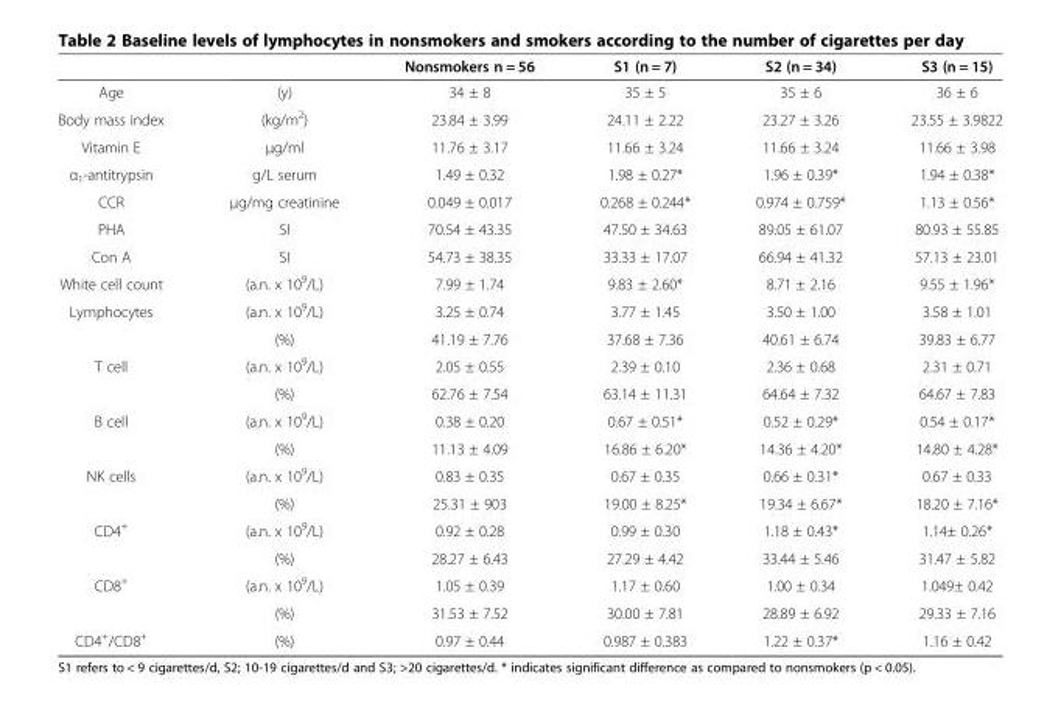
<table><thead><tr><td></td><td></td><td>Nonsmokers n = 56</td><td>S1 (n = 7)</td><td>S2 (n = 34)</td><td>S3 (n = 15)</td></tr></thead><tbody><tr><td>Age</td><td>(y)</td><td>34 ± 8</td><td>35 ± 5</td><td>35 ± 6</td><td>36 ± 6</td></tr><tr><td>Body mass index</td><td>(kg/m<sup>2</sup>)</td><td>23.84 ± 3.99</td><td>24.11 ± 2.22</td><td>23.27 ± 3.26</td><td>23.55 ± 3.9822</td></tr><tr><td>Vitamin E</td><td>μg/ml</td><td>11.76 ± 3.17</td><td>11.66 ± 3.24</td><td>11.66 ± 3.24</td><td>11.66 ± 3.98</td></tr><tr><td>α<sub>1</sub>-antitrypsin</td><td>g/L serum</td><td>1.49 ± 0.32</td><td>1.98 ± 0.27*</td><td>1.96 ± 0.39*</td><td>1.94 ± 0.38*</td></tr><tr><td>CCR</td><td>μg/mg creatinine</td><td>0.049 ± 0.017</td><td>0.268 ± 0.244*</td><td>0.974 ± 0.759*</td><td>1.13 ± 0.56*</td></tr><tr><td>PHA</td><td>SI</td><td>70.54 ± 43.35</td><td>47.50 ± 34.63</td><td>89.05 ± 61.07</td><td>80.93 ± 55.85</td></tr><tr><td>Con A</td><td>SI</td><td>54.73 ± 38.35</td><td>33.33 ± 17.07</td><td>66.94 ± 41.32</td><td>57.13 ± 23.01</td></tr><tr><td>White cell count</td><td>(a.n. x 10<sup>9</sup>/L)</td><td>7.99 ± 1.74</td><td>9.83 ± 2.60*</td><td>8.71 ± 2.16</td><td>9.55 ± 1.96*</td></tr><tr><td rowspan="2">Lymphocytes</td><td>(a.n. x 10<sup>9</sup>/L)</td><td>3.25 ± 0.74</td><td>3.77 ± 1.45</td><td>3.50 ± 1.00</td><td>3.58 ± 1.01</td></tr><tr><td>(%)</td><td>41.19 ± 7.76</td><td>37.68 ± 7.36</td><td>40.61 ± 6.74</td><td>39.83 ± 6.77</td></tr><tr><td rowspan="2">T cell</td><td>(a.n. x 10<sup>9</sup>/L)</td><td>2.05 ± 0.55</td><td>2.39 ± 0.10</td><td>2.36 ± 0.68</td><td>2.31 ± 0.71</td></tr><tr><td>(%)</td><td>62.76 ± 7.54</td><td>63.14 ± 11.31</td><td>64.64 ± 7.32</td><td>64.67 ± 7.83</td></tr><tr><td rowspan="2">B cell</td><td>(a.n. x 10<sup>9</sup>/L)</td><td>0.38 ± 0.20</td><td>0.67 ± 0.51*</td><td>0.52 ± 0.29*</td><td>0.54 ± 0.17*</td></tr><tr><td>(%)</td><td>11.13 ± 4.09</td><td>16.86 ± 6.20*</td><td>14.36 ± 4.20*</td><td>14.80 ± 4.28*</td></tr><tr><td rowspan="2">NK cells</td><td>(a.n. x 10<sup>9</sup>/L)</td><td>0.83 ± 0.35</td><td>0.67 ± 0.35</td><td>0.66 ± 0.31*</td><td>0.67 ± 0.33</td></tr><tr><td>(%)</td><td>25.31 ± 903</td><td>19.00 ± 8.25*</td><td>19.34 ± 6.67*</td><td>18.20 ± 7.16*</td></tr><tr><td rowspan="2">CD4<sup>+</sup></td><td>(a.n. x 10<sup>9</sup>/L)</td><td>0.92 ± 0.28</td><td>0.99 ± 0.30</td><td>1.18 ± 0.43*</td><td>1.14± 0.26*</td></tr><tr><td>(%)</td><td>28.27 ± 6.43</td><td>27.29 ± 4.42</td><td>33.44 ± 5.46</td><td>31.47 ± 5.82</td></tr><tr><td rowspan="2">CD8<sup>+</sup></td><td>(a.n. x 10<sup>9</sup>/L)</td><td>1.05 ± 0.39</td><td>1.17 ± 0.60</td><td>1.00 ± 0.34</td><td>1.049± 0.42</td></tr><tr><td>(%)</td><td>31.53 ± 7.52</td><td>30.00 ± 7.81</td><td>28.89 ± 6.92</td><td>29.33 ± 7.16</td></tr><tr><td>CD4<sup>+</sup>/CD8<sup>+</sup></td><td>(%)</td><td>0.97 ± 0.44</td><td>0.987 ± 0.383</td><td>1.22 ± 0.37*</td><td>1.16 ± 0.42</td></tr></tbody></table>